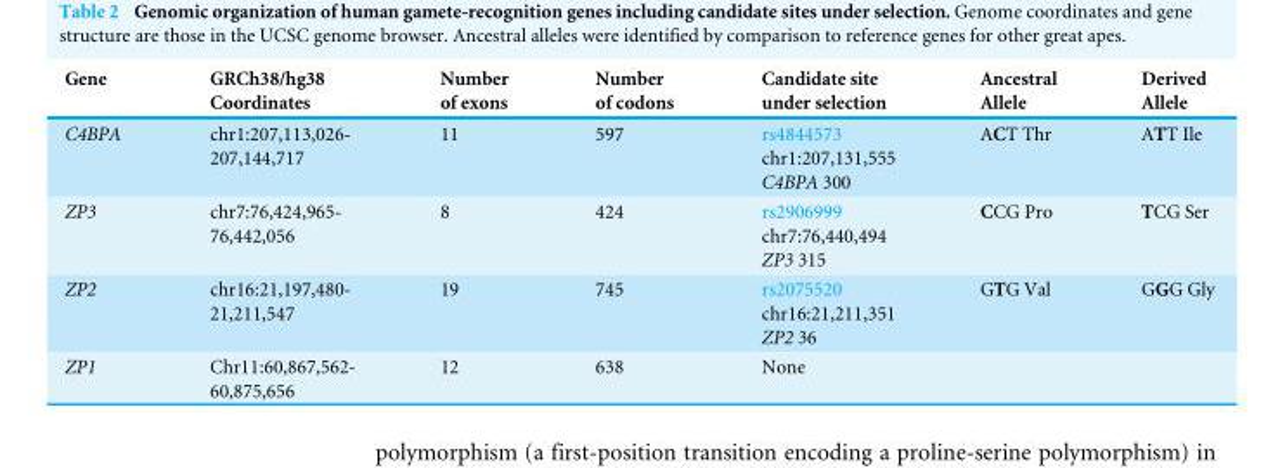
<table><thead><tr><td>Gene</td><td>GRCh38/hg38 Coordinates</td><td>Number of exons</td><td>Number of codons</td><td>Candidate site under selection</td><td>Ancestral Allele</td><td>Derived Allele</td></tr></thead><tbody><tr><td>C4BPA</td><td>chr1:207,113,026- 207,144,717</td><td>11</td><td>597</td><td>rs4844573 chr1:207,131,555 C4BPA 300</td><td>ACT Thr</td><td>ATT Ile</td></tr><tr><td>ZP3</td><td>chr7:76,424,965- 76,442,056</td><td>8</td><td>424</td><td>rs2906999 chr7:76,440,494 ZP3 315</td><td>CCG Pro</td><td>TCG Ser</td></tr><tr><td>ZP2</td><td>chr16:21,197,480- 21,211,547</td><td>19</td><td>745</td><td>rs2075520 chr16:21,211,351 ZP2 36</td><td>GTG Val</td><td>GGG Gly</td></tr><tr><td>ZP1</td><td>Chr11:60,867,562- 60,875,656</td><td>12</td><td>638</td><td>None</td><td></td><td></td></tr></tbody></table>